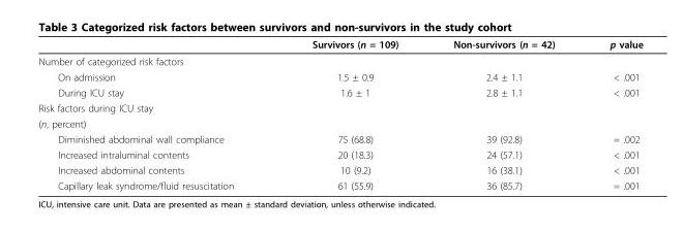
<table><thead><tr><td></td><td>Survivors (n = 109)</td><td>Non-survivors (n = 42)</td><td>p value</td></tr></thead><tbody><tr><td colspan="4">Number of categorized risk factors</td></tr><tr><td>On admission</td><td>1.5 ± 0.9</td><td>2.4 ± 1.1</td><td>&lt; .001</td></tr><tr><td>During ICU stay</td><td>1.6 ± 1</td><td>2.8 ± 1.1</td><td>&lt; .001</td></tr><tr><td colspan="4">Risk factors during ICU stay</td></tr><tr><td colspan="4">(n, percent)</td></tr><tr><td>Diminished abdominal wall compliance</td><td>75 (68.8)</td><td>39 (92.8)</td><td>= .002</td></tr><tr><td>Increased intraluminal contents</td><td>20 (18.3)</td><td>24 (57.1)</td><td>&lt; .001</td></tr><tr><td>Increased abdominal contents</td><td>10 (9.2)</td><td>16 (38.1)</td><td>&lt; .001</td></tr><tr><td>Capillary leak syndrome/fluid resuscitation</td><td>61 (55.9)</td><td>36 (85.7)</td><td>= .001</td></tr></tbody></table>